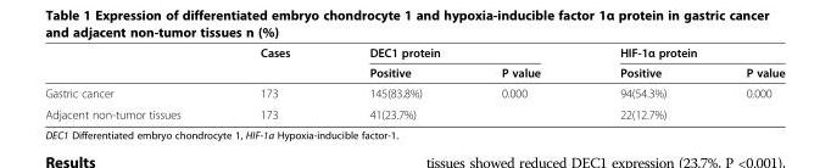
<table><thead><tr><td rowspan="2"></td><td rowspan="2">Cases</td><td colspan="2">DEC1 protein</td><td colspan="2">HIF-1α protein</td></tr><tr><td>Positive</td><td>P value</td><td>Positive</td><td>P value</td></tr></thead><tbody><tr><td>Gastric cancer</td><td>173</td><td>145(83.8%)</td><td>0.000</td><td>94(54.3%)</td><td>0.000</td></tr><tr><td>Adjacent non-tumor tissues</td><td>173</td><td>41(23.7%)</td><td></td><td>22(12.7%)</td><td></td></tr></tbody></table>